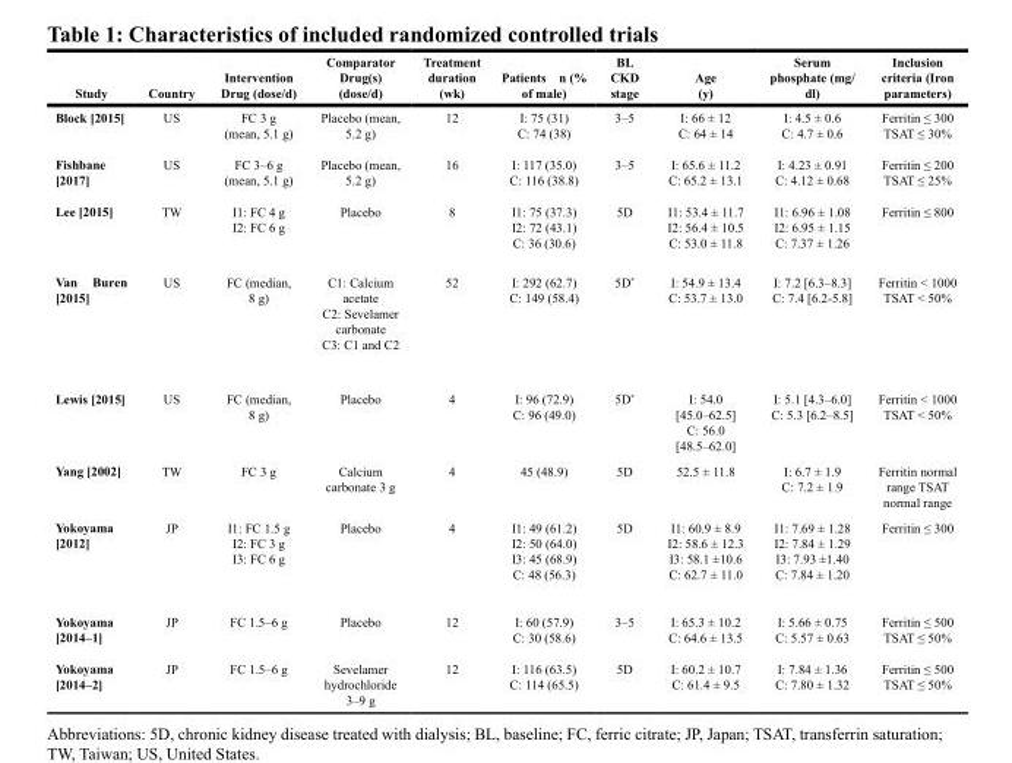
<table><thead><tr><td>Study</td><td>Country</td><td>Intervention Drug (dose/d)</td><td>Comparator Drug(s) (dose/d)</td><td>Treatment duration (wk)</td><td>Patients n (% of male)</td><td>BL CKD stage</td><td>Age (y)</td><td>Serum phosphate (mg/ dl)</td><td>Inclusion criteria (Iron parameters)</td></tr></thead><tbody><tr><td>Block [2015]</td><td>US</td><td>FC 3 g (mean, 5.1 g)</td><td>Placebo (mean, 5.2 g)</td><td>12</td><td>I: 75 (31) C: 74 (38)</td><td>3–5</td><td>I: 66 ± 12 C: 64 ± 14</td><td>I: 4.5 ± 0.6 C: 4.7 ± 0.6</td><td>Ferritin ≤ 300 TSAT ≤ 30%</td></tr><tr><td>Fishbane [2017]</td><td>US</td><td>FC 3–6 g (mean, 5.1 g)</td><td>Placebo (mean, 5.2 g)</td><td>16</td><td>I: 117 (35.0) C: 116 (38.8)</td><td>3–5</td><td>I: 65.6 ± 11.2 C: 65.2 ± 13.1</td><td>I: 4.23 ± 0.91 C: 4.12 ± 0.68</td><td>Ferritin ≤ 200 TSAT ≤ 25%</td></tr><tr><td>Lee [2015]</td><td>TW</td><td>I1: FC 4 g I2: FC 6 g</td><td>Placebo</td><td>8</td><td>I1: 75 (37.3) I2: 72 (43.1) C: 36 (30.6)</td><td>5D</td><td>I1: 53.4 ± 11.7 I2: 56.4 ± 10.5 C: 53.0 ± 11.8</td><td>I1: 6.96 ± 1.08 I2: 6.95 ± 1.15 C: 7.37 ± 1.26</td><td>Ferritin ≤ 800</td></tr><tr><td>Van Buren [2015]</td><td>US</td><td>FC (median, 8 g)</td><td>C1: Calcium acetate C2: Sevelamer carbonate C3: C1 and C2</td><td>52</td><td>I: 292 (62.7) C: 149 (58.4)</td><td>5D*</td><td>I: 54.9 ± 13.4 C: 53.7 ± 13.0</td><td>I: 7.2 [6.3–8.3] C: 7.4 [6.2-5.8]</td><td>Ferritin &lt; 1000 TSAT &lt; 50%</td></tr><tr><td>Lewis [2015]</td><td>US</td><td>FC (median, 8 g)</td><td>Placebo</td><td>4</td><td>I: 96 (72.9) C: 96 (49.0)</td><td>5D*</td><td>I: 54.0 [45.0–62.5] C: 56.0 [48.5–62.0]</td><td>I: 5.1 [4.3–6.0] C: 5.3 [6.2–8.5]</td><td>Ferritin &lt; 1000 TSAT &lt; 50%</td></tr><tr><td>Yang [2002]</td><td>TW</td><td>FC 3 g</td><td>Calcium carbonate 3 g</td><td>4</td><td>45 (48.9)</td><td>5D</td><td>52.5 ± 11.8</td><td>I: 6.7 ± 1.9 C: 7.2 ± 1.9</td><td>Ferritin normal range TSAT normal range</td></tr><tr><td>Yokoyama [2012]</td><td>JP</td><td>I1: FC 1.5 g I2: FC 3 g I3: FC 6 g</td><td>Placebo</td><td>4</td><td>I1: 49 (61.2) I2: 50 (64.0) I3: 45 (68.9) C: 48 (56.3)</td><td>5D</td><td>I1: 60.9 ± 8.9 I2: 58.6 ± 12.3 I3: 58.1 ±10.6 C: 62.7 ± 11.0</td><td>I1: 7.69 ± 1.28 I2: 7.84 ± 1.29 I3: 7.93 ±1.40 C: 7.84 ± 1.20</td><td>Ferritin ≤ 300</td></tr><tr><td>Yokoyama [2014–1]</td><td>JP</td><td>FC 1.5–6 g</td><td>Placebo</td><td>12</td><td>I: 60 (57.9) C: 30 (58.6)</td><td>3–5</td><td>I: 65.3 ± 10.2 C: 64.6 ± 13.5</td><td>I: 5.66 ± 0.75 C: 5.57 ± 0.63</td><td>Ferritin ≤ 500 TSAT ≤ 50%</td></tr><tr><td>Yokoyama [2014–2]</td><td>JP</td><td>FC 1.5–6 g</td><td>Sevelamer hydrochloride 3–9 g</td><td>12</td><td>I: 116 (63.5) C: 114 (65.5)</td><td>5D</td><td>I: 60.2 ± 10.7 C: 61.4 ± 9.5</td><td>I: 7.84 ± 1.36 C: 7.80 ± 1.32</td><td>Ferritin ≤ 500 TSAT ≤ 50%</td></tr></tbody></table>